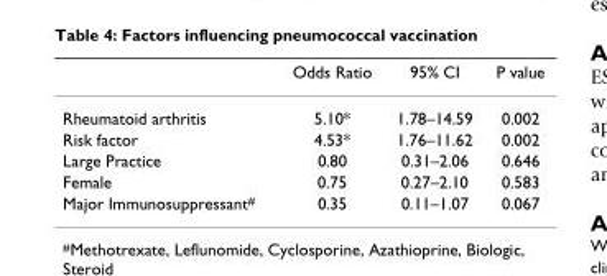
<table><thead><tr><td></td><td>Odds Ratio</td><td>95% CI</td><td>P value</td></tr></thead><tbody><tr><td>Rheumatoid arthritis</td><td>5.10*</td><td>1.78–14.59</td><td>0.002</td></tr><tr><td>Risk factor</td><td>4.53*</td><td>1.76–11.62</td><td>0.002</td></tr><tr><td>Large Practice</td><td>0.80</td><td>0.31–2.06</td><td>0.646</td></tr><tr><td>Female</td><td>0.75</td><td>0.27–2.10</td><td>0.583</td></tr><tr><td>Major Immunosuppressant<sup>#</sup></td><td>0.35</td><td>0.11–1.07</td><td>0.067</td></tr></tbody></table>